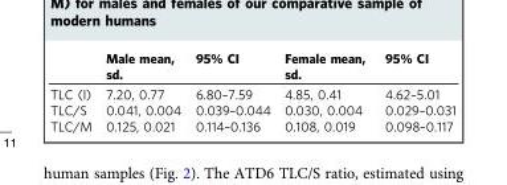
<table><thead><tr><td></td><td>Male mean, sd.</td><td>95% CI</td><td>Female mean, sd.</td><td>95% CI</td></tr></thead><tbody><tr><td>TLC (l)</td><td>7.20, 0.77</td><td>6.80–7.59</td><td>4.85, 0.41</td><td>4.62–5.01</td></tr><tr><td>TLC/S</td><td>0.041, 0.004</td><td>0.039–0.044</td><td>0.030, 0.004</td><td>0.029–0.031</td></tr><tr><td>TLC/M</td><td>0.125, 0.021</td><td>0.114–0.136</td><td>0.108, 0.019</td><td>0.098–0.117</td></tr></tbody></table>